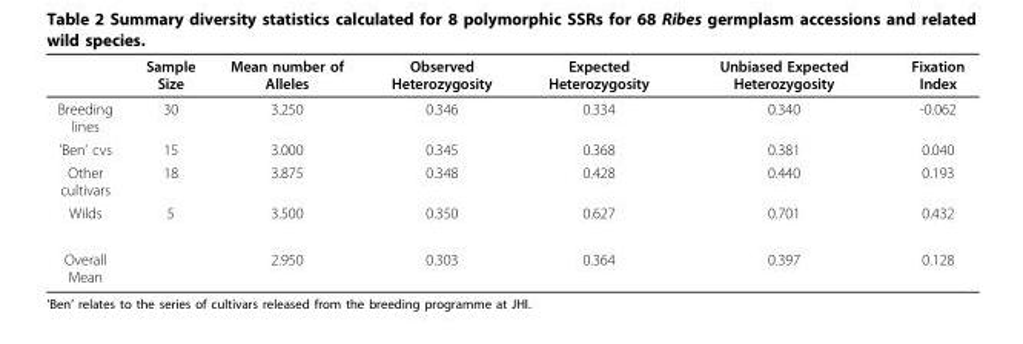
<table><thead><tr><td></td><td>Sample Size</td><td>Mean number of Alleles</td><td>Observed Heterozygosity</td><td>Expected Heterozygosity</td><td>Unbiased Expected Heterozygosity</td><td>Fixation Index</td></tr></thead><tbody><tr><td>Breeding lines</td><td>30</td><td>3.250</td><td>0.346</td><td>0.334</td><td>0.340</td><td>-0.062</td></tr><tr><td>’Ben’ cvs</td><td>15</td><td>3.000</td><td>0.345</td><td>0.368</td><td>0.381</td><td>0.040</td></tr><tr><td>Other cultivars</td><td>18</td><td>3.875</td><td>0.348</td><td>0.428</td><td>0.440</td><td>0.193</td></tr><tr><td>Wilds</td><td>5</td><td>3.500</td><td>0.350</td><td>0.627</td><td>0.701</td><td>0.432</td></tr><tr><td>Overall Mean</td><td></td><td>2.950</td><td>0.303</td><td>0.364</td><td>0.397</td><td>0.128</td></tr></tbody></table>